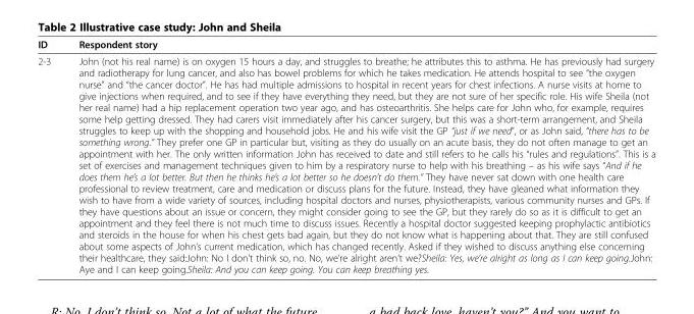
<table><thead><tr><td>ID</td><td>Respondent story</td></tr></thead><tbody><tr><td>2-3</td><td>John (not his real name) is on oxygen 15 hours a day, and struggles to breathe; he attributes this to asthma. He has previously had surgery and radiotherapy for lung cancer, and also has bowel problems for which he takes medication. He attends hospital to see “the oxygen nurse” and “the cancer doctor”. He has had multiple admissions to hospital in recent years for chest infections. A nurse visits at home to give injections when required, and to see if they have everything they need, but they are not sure of her specific role. His wife Sheila (not her real name) had a hip replacement operation two year ago, and has osteoarthritis. She helps care for John who, for example, requires some help getting dressed. They had carers visit immediately after his cancer surgery, but this was a short-term arrangement, and Sheila struggles to keep up with the shopping and household jobs. He and his wife visit the GP “just if we need”, or as John said, “there has to be something wrong.” They prefer one GP in particular but, visiting as they do usually on an acute basis, they do not often manage to get an appointment with her. The only written information John has received to date and still refers to he calls his “rules and regulations”. This is a set of exercises and management techniques given to him by a respiratory nurse to help with his breathing – as his wife says “And if he does them he’s a lot better. But then he thinks he’s a lot better so he doesn’t do them.” They have never sat down with one health care professional to review treatment, care and medication or discuss plans for the future. Instead, they have gleaned what information they wish to have from a wide variety of sources, including hospital doctors and nurses, physiotherapists, various community nurses and GPs. If they have questions about an issue or concern, they might consider going to see the GP, but they rarely do so as it is difficult to get an appointment and they feel there is not much time to discuss issues. Recently a hospital doctor suggested keeping prophylactic antibiotics and steroids in the house for when his chest gets bad again, but they do not know what is happening about that. They are still confused about some aspects of John’s current medication, which has changed recently. Asked if they wished to discuss anything else concerning their healthcare, they said:John: No I don’t think so, no. No, we’re alright aren’t we?Sheila: Yes, we’re alright as long as I can keep going.John: Aye and I can keep going.Sheila: And you can keep going. You can keep breathing yes.</td></tr></tbody></table>